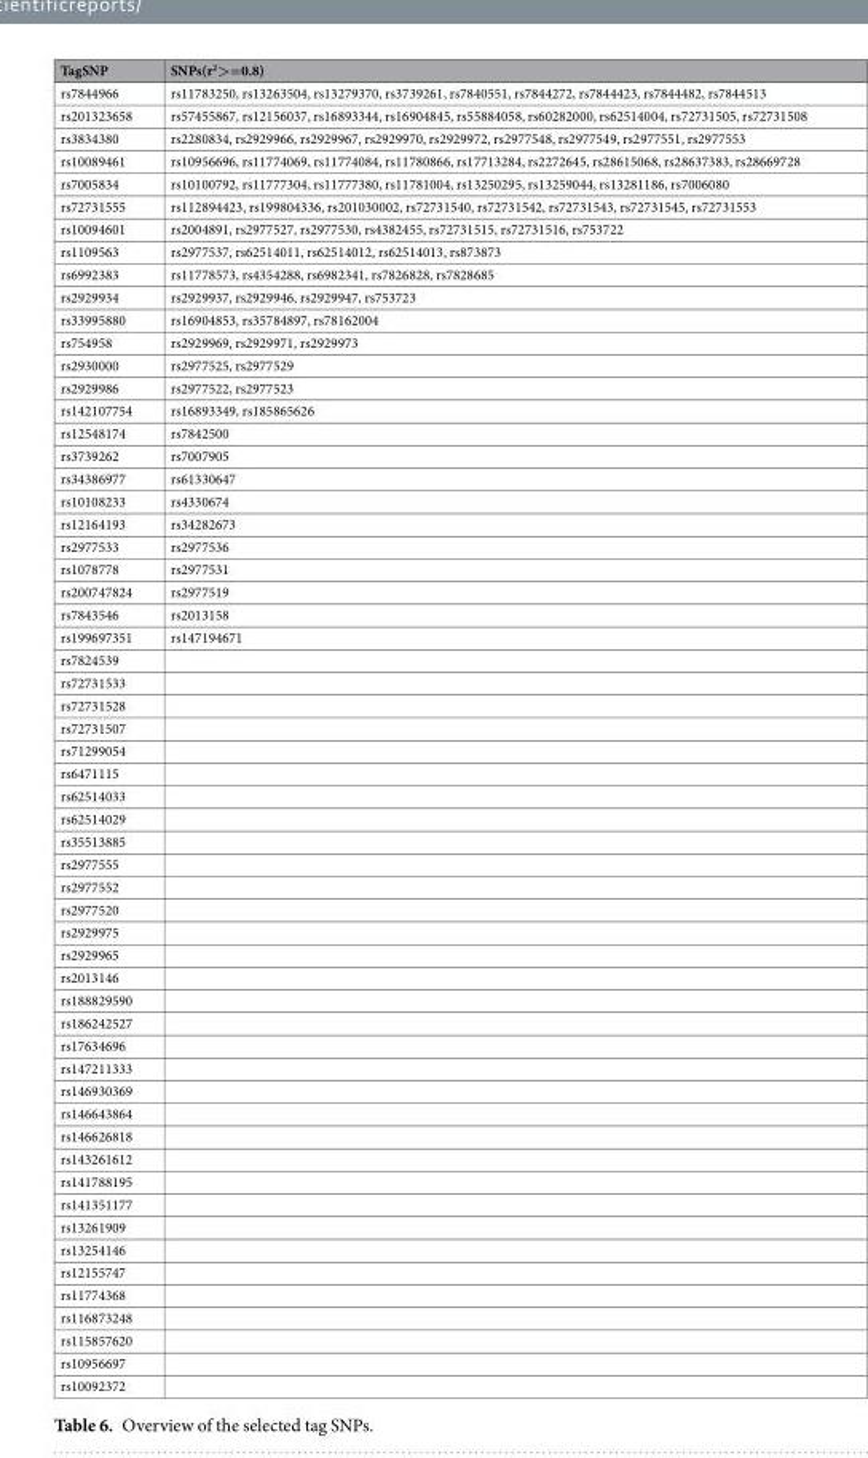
<table><thead><tr><td>TagSNP</td><td>SNPs(r<sup>2</sup>&gt;=0.8)</td></tr></thead><tbody><tr><td>rs7844966</td><td>rs11783250, rs13263504, rs13279370, rs3739261, rs7840551, rs7844272, rs7844423, rs7844482, rs7844513</td></tr><tr><td>rs201323658</td><td>rs57455867, rs12156037, rs16893344, rs16904845, rs55884058, rs60282000, rs62514004, rs72731505, rs72731508</td></tr><tr><td>rs3834380</td><td>rs2280834, rs2929966, rs2929967, rs2929970, rs2929972, rs2977548, rs2977549, rs2977551, rs2977553</td></tr><tr><td>rs10089461</td><td>rs10956696, rs11774069, rs11774084, rs11780866, rs17713284, rs2272645, rs28615068, rs28637383, rs28669728</td></tr><tr><td>rs7005834</td><td>rs10100792, rs11777304, rs11777380, rs11781004, rs13250295, rs13259044, rs13281186, rs7006080</td></tr><tr><td>rs72731555</td><td>rs112894423, rs199804336, rs201030002, rs72731540, rs72731542, rs72731543, rs72731545, rs72731553</td></tr><tr><td>rs10094601</td><td>rs2004891, rs2977527, rs2977530, rs4382455, rs72731515, rs72731516, rs753722</td></tr><tr><td>rs1109563</td><td>rs2977537, rs62514011, rs62514012, rs62514013, rs873873</td></tr><tr><td>rs6992383</td><td>rs11778573, rs4354288, rs6982341, rs7826828, rs7828685</td></tr><tr><td>rs2929934</td><td>rs2929937, rs2929946, rs2929947, rs753723</td></tr><tr><td>rs33995880</td><td>rs16904853, rs35784897, rs78162004</td></tr><tr><td>rs754958</td><td>rs2929969, rs2929971, rs2929973</td></tr><tr><td>rs2930000</td><td>rs2977525, rs2977529</td></tr><tr><td>rs2929986</td><td>rs2977522, rs2977523</td></tr><tr><td>rs142107754</td><td>rs16893349, rs185865626</td></tr><tr><td>rs12548174</td><td>rs7842500</td></tr><tr><td>rs3739262</td><td>rs7007905</td></tr><tr><td>rs34386977</td><td>rs61330647</td></tr><tr><td>rs10108233</td><td>rs4330674</td></tr><tr><td>rs12164193</td><td>rs34282673</td></tr><tr><td>rs2977533</td><td>rs2977536</td></tr><tr><td>rs1078778</td><td>rs2977531</td></tr><tr><td>rs200747824</td><td>rs2977519</td></tr><tr><td>rs7843546</td><td>rs2013158</td></tr><tr><td>rs199697351</td><td>rs147194671</td></tr><tr><td colspan="2">rs7824539</td></tr><tr><td colspan="2">rs72731533</td></tr><tr><td colspan="2">rs72731528</td></tr><tr><td colspan="2">rs72731507</td></tr><tr><td colspan="2">rs71299054</td></tr><tr><td colspan="2">rs6471115</td></tr><tr><td colspan="2">rs62514033</td></tr><tr><td colspan="2">rs62514029</td></tr><tr><td colspan="2">rs35513885</td></tr><tr><td colspan="2">rs2977555</td></tr><tr><td colspan="2">rs2977552</td></tr><tr><td colspan="2">rs2977520</td></tr><tr><td colspan="2">rs2929975</td></tr><tr><td colspan="2">rs2929965</td></tr><tr><td colspan="2">rs2013146</td></tr><tr><td colspan="2">rs188829590</td></tr><tr><td colspan="2">rs186242527</td></tr><tr><td colspan="2">rs17634696</td></tr><tr><td colspan="2">rs147211333</td></tr><tr><td colspan="2">rs146930369</td></tr><tr><td colspan="2">rs146643864</td></tr><tr><td colspan="2">rs146626818</td></tr><tr><td colspan="2">rs143261612</td></tr><tr><td colspan="2">rs141788195</td></tr><tr><td colspan="2">rs141351177</td></tr><tr><td colspan="2">rs13261909</td></tr><tr><td colspan="2">rs13254146</td></tr><tr><td colspan="2">rs12155747</td></tr><tr><td colspan="2">rs11774368</td></tr><tr><td colspan="2">rs116873248</td></tr><tr><td colspan="2">rs115857620</td></tr><tr><td colspan="2">rs10956697</td></tr><tr><td>rs10092372</td><td></td></tr></tbody></table>